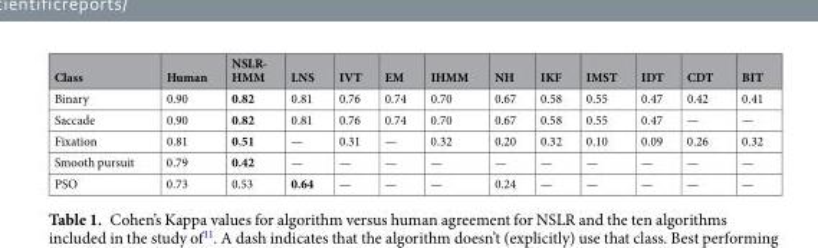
<table><thead><tr><td>Class</td><td>Human</td><td>NSLR- HMM</td><td>LNS</td><td>IVT</td><td>EM</td><td>IHMM</td><td>NH</td><td>IKF</td><td>IMST</td><td>IDT</td><td>CDT</td><td>BIT</td></tr></thead><tbody><tr><td>Binary</td><td>0.90</td><td>0.82</td><td>0.81</td><td>0.76</td><td>0.74</td><td>0.70</td><td>0.67</td><td>0.58</td><td>0.55</td><td>0.47</td><td>0.42</td><td>0.41</td></tr><tr><td>Saccade</td><td>0.90</td><td>0.82</td><td>0.81</td><td>0.76</td><td>0.74</td><td>0.70</td><td>0.67</td><td>0.58</td><td>0.55</td><td>0.47</td><td>—</td><td>—</td></tr><tr><td>Fixation</td><td>0.81</td><td>0.51</td><td>—</td><td>0.31</td><td>—</td><td>0.32</td><td>0.20</td><td>0.32</td><td>0.10</td><td>0.09</td><td>0.26</td><td>0.32</td></tr><tr><td>Smooth pursuit</td><td>0.79</td><td>0.42</td><td>—</td><td>—</td><td>—</td><td>—</td><td>—</td><td>—</td><td>—</td><td>—</td><td>—</td><td>—</td></tr><tr><td>PSO</td><td>0.73</td><td>0.53</td><td>0.64</td><td>—</td><td>—</td><td>—</td><td>0.24</td><td>—</td><td>—</td><td>—</td><td>—</td><td>—</td></tr></tbody></table>